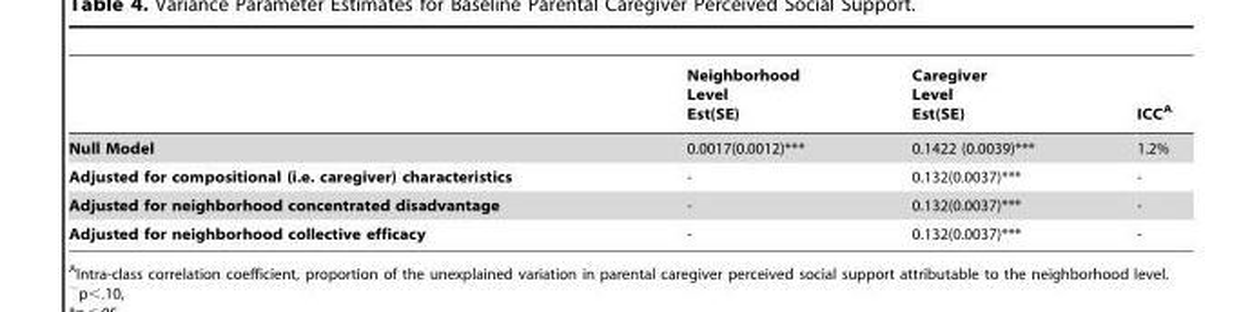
<table><thead><tr><td></td><td>Neighborhood Level Est(SE)</td><td>Caregiver Level Est(SE)</td><td>ICC<sup>A</sup></td></tr></thead><tbody><tr><td>Null Model</td><td>0.0017(0.0012)***</td><td>0.1422 (0.0039)***</td><td>1.2%</td></tr><tr><td>Adjusted for compositional (i.e. caregiver) characteristics</td><td>-</td><td>0.132(0.0037)***</td><td>-</td></tr><tr><td>Adjusted for neighborhood concentrated disadvantage</td><td>-</td><td>0.132(0.0037)***</td><td>-</td></tr><tr><td>Adjusted for neighborhood collective efficacy</td><td>-</td><td>0.132(0.0037)***</td><td>-</td></tr></tbody></table>